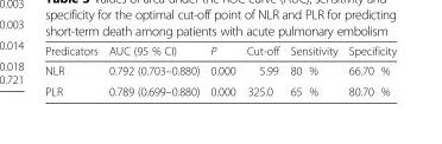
<table><thead><tr><td>Predicators</td><td>AUC (95 % CI)</td><td>P</td><td>Cut-off</td><td>Sensitivity</td><td>Specificity</td></tr></thead><tbody><tr><td>NLR</td><td>0.792 (0.703–0.880)</td><td>0.000</td><td>5.99</td><td>80 %</td><td>66.70 %</td></tr><tr><td>PLR</td><td>0.789 (0.699–0.880)</td><td>0.000</td><td>325.0</td><td>65 %</td><td>80.70 %</td></tr></tbody></table>